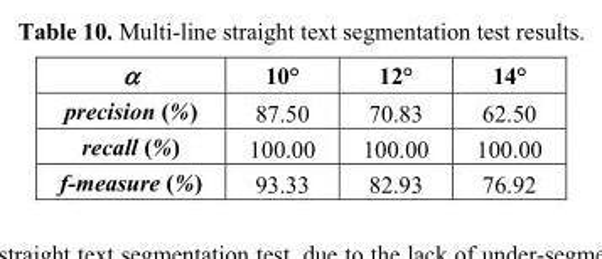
<table><thead><tr><td>α</td><td>10°</td><td>12°</td><td>14°</td></tr></thead><tbody><tr><td>precision (%)</td><td>87.50</td><td>70.83</td><td>62.50</td></tr><tr><td>recall (%)</td><td>100.00</td><td>100.00</td><td>100.00</td></tr><tr><td>f-measure (%)</td><td>93.33</td><td>82.93</td><td>76.92</td></tr></tbody></table>